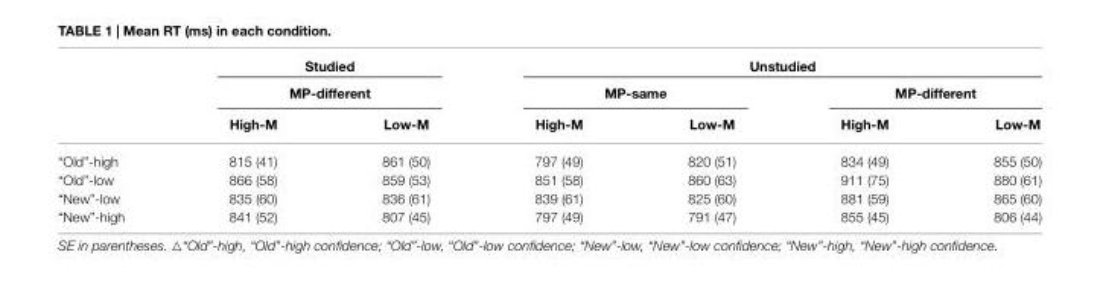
<table><thead><tr><td rowspan="3"></td><td rowspan="2" colspan="2">Studied MP-different</td><td colspan="4">Unstudied</td></tr><tr><td colspan="2">MP-same</td><td colspan="2">MP-different</td></tr><tr><td>High-M</td><td>Low-M</td><td>High-M</td><td>Low-M</td><td>High-M</td><td>Low-M</td></tr></thead><tbody><tr><td>“Old”-high</td><td>815 (41)</td><td>861 (50)</td><td>797 (49)</td><td>820 (51)</td><td>834 (49)</td><td>855 (50)</td></tr><tr><td>“Old”-low</td><td>866 (58)</td><td>859 (53)</td><td>851 (58)</td><td>860 (63)</td><td>911 (75)</td><td>880 (61)</td></tr><tr><td>“New”-low</td><td>835 (60)</td><td>836 (61)</td><td>839 (61)</td><td>825 (60)</td><td>881 (59)</td><td>865 (60)</td></tr><tr><td>“New”-high</td><td>841 (52)</td><td>807 (45)</td><td>797 (49)</td><td>791 (47)</td><td>855 (45)</td><td>806 (44)</td></tr></tbody></table>